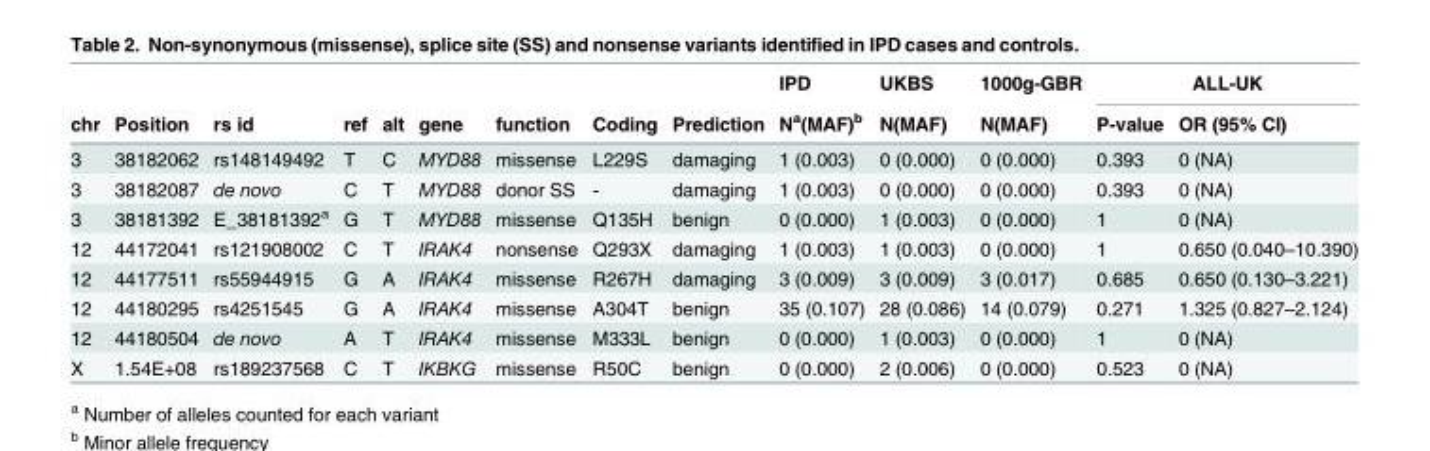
<table><thead><tr><td rowspan="2">chr</td><td rowspan="2">Position</td><td rowspan="2">rs id</td><td rowspan="2">ref</td><td rowspan="2">alt</td><td rowspan="2">gene</td><td rowspan="2">function</td><td rowspan="2">Coding</td><td rowspan="2">Prediction</td><td rowspan="2">IPD N<sup>a</sup>(MAF)<sup>b</sup></td><td rowspan="2">UKBS N(MAF)</td><td rowspan="2">1000g-GBR N(MAF)</td><td colspan="2">ALL-UK</td></tr><tr><td>P-value</td><td>OR (95% CI)</td></tr></thead><tbody><tr><td>3</td><td>38182062</td><td>rs148149492</td><td>T</td><td>C</td><td>MYD88</td><td>missense</td><td>L229S</td><td>damaging</td><td>1 (0.003)</td><td>0 (0.000)</td><td>0 (0.000)</td><td>0.393</td><td>0 (NA)</td></tr><tr><td>3</td><td>38182087</td><td>de novo</td><td>C</td><td>T</td><td>MYD88</td><td>donor SS</td><td>-</td><td>damaging</td><td>1 (0.003)</td><td>0 (0.000)</td><td>0 (0.000)</td><td>0.393</td><td>0 (NA)</td></tr><tr><td>3</td><td>38181392</td><td>E_38181392<sup>a</sup></td><td>G</td><td>T</td><td>MYD88</td><td>missense</td><td>Q135H</td><td>benign</td><td>0 (0.000)</td><td>1 (0.003)</td><td>0 (0.000)</td><td>1</td><td>0 (NA)</td></tr><tr><td>12</td><td>44172041</td><td>rs121908002</td><td>C</td><td>T</td><td>IRAK4</td><td>nonsense</td><td>Q293X</td><td>damaging</td><td>1 (0.003)</td><td>1 (0.003)</td><td>0 (0.000)</td><td>1</td><td>0.650 (0.040–10.390)</td></tr><tr><td>12</td><td>44177511</td><td>rs55944915</td><td>G</td><td>A</td><td>IRAK4</td><td>missense</td><td>R267H</td><td>damaging</td><td>3 (0.009)</td><td>3 (0.009)</td><td>3 (0.017)</td><td>0.685</td><td>0.650 (0.130–3.221)</td></tr><tr><td>12</td><td>44180295</td><td>rs4251545</td><td>G</td><td>A</td><td>IRAK4</td><td>missense</td><td>A304T</td><td>benign</td><td>35 (0.107)</td><td>28 (0.086)</td><td>14 (0.079)</td><td>0.271</td><td>1.325 (0.827–2.124)</td></tr><tr><td>12</td><td>44180504</td><td>de novo</td><td>A</td><td>T</td><td>IRAK4</td><td>missense</td><td>M333L</td><td>benign</td><td>0 (0.000)</td><td>1 (0.003)</td><td>0 (0.000)</td><td>1</td><td>0 (NA)</td></tr><tr><td>X</td><td>1.54E+08</td><td>rs189237568</td><td>C</td><td>T</td><td>IKBKG</td><td>missense</td><td>R50C</td><td>benign</td><td>0 (0.000)</td><td>2 (0.006)</td><td>0 (0.000)</td><td>0.523</td><td>0 (NA)</td></tr></tbody></table>